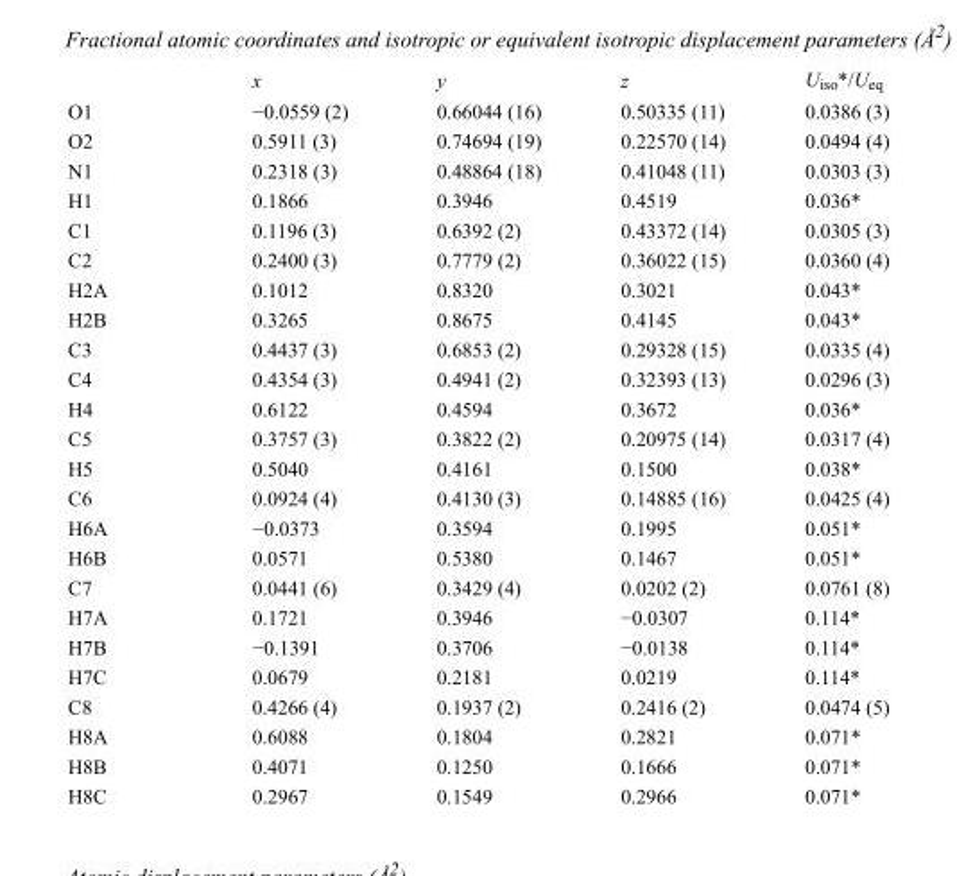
<table><thead><tr><td></td><td>x</td><td>y</td><td>z</td><td>U<sub>iso</sub>*/U<sub>eq</sub></td></tr></thead><tbody><tr><td>O1</td><td>−0.0559 (2)</td><td>0.66044 (16)</td><td>0.50335 (11)</td><td>0.0386 (3)</td></tr><tr><td>O2</td><td>0.5911 (3)</td><td>0.74694 (19)</td><td>0.22570 (14)</td><td>0.0494 (4)</td></tr><tr><td>N1</td><td>0.2318 (3)</td><td>0.48864 (18)</td><td>0.41048 (11)</td><td>0.0303 (3)</td></tr><tr><td>H1</td><td>0.1866</td><td>0.3946</td><td>0.4519</td><td>0.036*</td></tr><tr><td>C1</td><td>0.1196 (3)</td><td>0.6392 (2)</td><td>0.43372 (14)</td><td>0.0305 (3)</td></tr><tr><td>C2</td><td>0.2400 (3)</td><td>0.7779 (2)</td><td>0.36022 (15)</td><td>0.0360 (4)</td></tr><tr><td>H2A</td><td>0.1012</td><td>0.8320</td><td>0.3021</td><td>0.043*</td></tr><tr><td>H2B</td><td>0.3265</td><td>0.8675</td><td>0.4145</td><td>0.043*</td></tr><tr><td>C3</td><td>0.4437 (3)</td><td>0.6853 (2)</td><td>0.29328 (15)</td><td>0.0335 (4)</td></tr><tr><td>C4</td><td>0.4354 (3)</td><td>0.4941 (2)</td><td>0.32393 (13)</td><td>0.0296 (3)</td></tr><tr><td>H4</td><td>0.6122</td><td>0.4594</td><td>0.3672</td><td>0.036*</td></tr><tr><td>C5</td><td>0.3757 (3)</td><td>0.3822 (2)</td><td>0.20975 (14)</td><td>0.0317 (4)</td></tr><tr><td>H5</td><td>0.5040</td><td>0.4161</td><td>0.1500</td><td>0.038*</td></tr><tr><td>C6</td><td>0.0924 (4)</td><td>0.4130 (3)</td><td>0.14885 (16)</td><td>0.0425 (4)</td></tr><tr><td>H6A</td><td>−0.0373</td><td>0.3594</td><td>0.1995</td><td>0.051*</td></tr><tr><td>H6B</td><td>0.0571</td><td>0.5380</td><td>0.1467</td><td>0.051*</td></tr><tr><td>C7</td><td>0.0441 (6)</td><td>0.3429 (4)</td><td>0.0202 (2)</td><td>0.0761 (8)</td></tr><tr><td>H7A</td><td>0.1721</td><td>0.3946</td><td>−0.0307</td><td>0.114*</td></tr><tr><td>H7B</td><td>−0.1391</td><td>0.3706</td><td>−0.0138</td><td>0.114*</td></tr><tr><td>H7C</td><td>0.0679</td><td>0.2181</td><td>0.0219</td><td>0.114*</td></tr><tr><td>C8</td><td>0.4266 (4)</td><td>0.1937 (2)</td><td>0.2416 (2)</td><td>0.0474 (5)</td></tr><tr><td>H8A</td><td>0.6088</td><td>0.1804</td><td>0.2821</td><td>0.071*</td></tr><tr><td>H8B</td><td>0.4071</td><td>0.1250</td><td>0.1666</td><td>0.071*</td></tr><tr><td>H8C</td><td>0.2967</td><td>0.1549</td><td>0.2966</td><td>0.071*</td></tr></tbody></table>